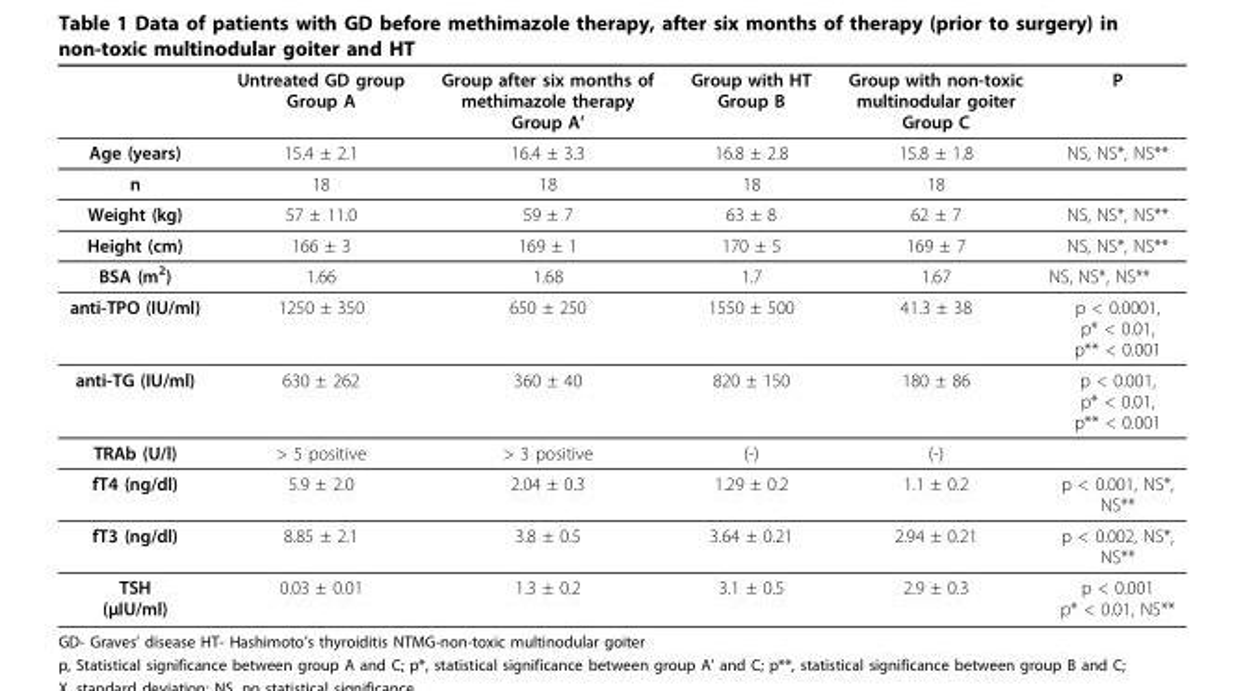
<table><thead><tr><td></td><td>Untreated GD group Group A</td><td>Group after six months of methimazole therapy Group A’</td><td>Group with HT Group B</td><td>Group with non-toxic multinodular goiter Group C</td><td>P</td></tr></thead><tbody><tr><td>Age (years)</td><td>15.4 ± 2.1</td><td>16.4 ± 3.3</td><td>16.8 ± 2.8</td><td>15.8 ± 1.8</td><td>NS, NS*, NS**</td></tr><tr><td>n</td><td>18</td><td>18</td><td>18</td><td>18</td><td></td></tr><tr><td>Weight (kg)</td><td>57 ± 11.0</td><td>59 ± 7</td><td>63 ± 8</td><td>62 ± 7</td><td>NS, NS*, NS**</td></tr><tr><td>Height (cm)</td><td>166 ± 3</td><td>169 ± 1</td><td>170 ± 5</td><td>169 ± 7</td><td>NS, NS*, NS**</td></tr><tr><td>BSA (m<sup>2</sup>)</td><td>1.66</td><td>1.68</td><td>1.7</td><td>1.67</td><td>NS, NS*, NS**</td></tr><tr><td>anti-TPO (IU/ml)</td><td>1250 ± 350</td><td>650 ± 250</td><td>1550 ± 500</td><td>41.3 ± 38</td><td>p &lt; 0.0001, p* &lt; 0.01, p** &lt; 0.001</td></tr><tr><td>anti-TG (IU/ml)</td><td>630 ± 262</td><td>360 ± 40</td><td>820 ± 150</td><td>180 ± 86</td><td>p &lt; 0.001, p* &lt; 0.01, p** &lt; 0.001</td></tr><tr><td>TRAb (U/l)</td><td>&gt; 5 positive</td><td>&gt; 3 positive</td><td>(-)</td><td>(-)</td><td></td></tr><tr><td>fT4 (ng/dl)</td><td>5.9 ± 2.0</td><td>2.04 ± 0.3</td><td>1.29 ± 0.2</td><td>1.1 ± 0.2</td><td>p &lt; 0.001, NS*, NS**</td></tr><tr><td>fT3 (ng/dl)</td><td>8.85 ± 2.1</td><td>3.8 ± 0.5</td><td>3.64 ± 0.21</td><td>2.94 ± 0.21</td><td>p &lt; 0.002, NS*, NS**</td></tr><tr><td>TSH (μIU/ml)</td><td>0.03 ± 0.01</td><td>1.3 ± 0.2</td><td>3.1 ± 0.5</td><td>2.9 ± 0.3</td><td>p &lt; 0.001 p* &lt; 0.01, NS**</td></tr></tbody></table>